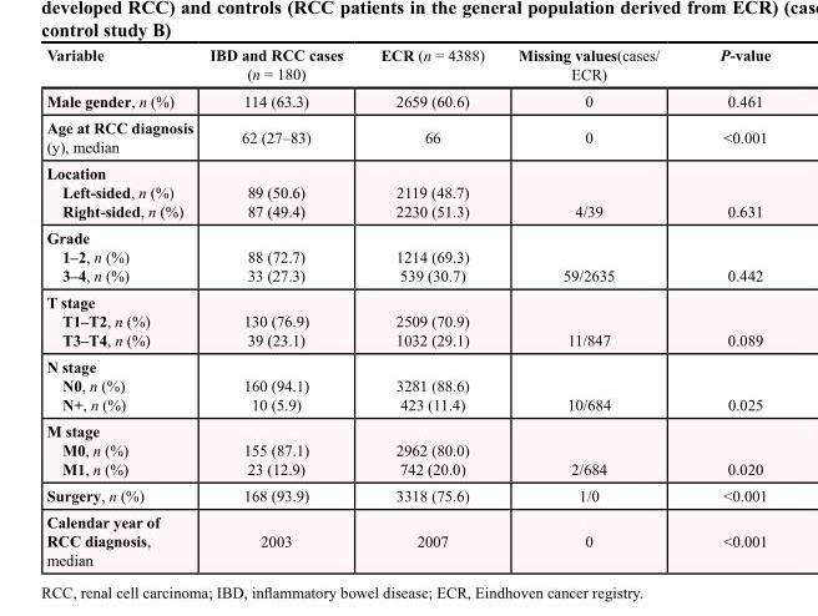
<table><thead><tr><td>Variable</td><td>IBD and RCC cases (n = 180)</td><td>ECR (n = 4388)</td><td>Missing values(cases/ ECR)</td><td>P-value</td></tr></thead><tbody><tr><td>Male gender, n (%)</td><td>114 (63.3)</td><td>2659 (60.6)</td><td>0</td><td>0.461</td></tr><tr><td>Age at RCC diagnosis (y), median</td><td>62 (27–83)</td><td>66</td><td>0</td><td>&lt;0.001</td></tr><tr><td>Location Left-sided, n (%) Right-sided, n (%)</td><td>89 (50.6) 87 (49.4)</td><td>2119 (48.7) 2230 (51.3)</td><td>4/39</td><td>0.631</td></tr><tr><td>Grade 1–2, n (%) 3–4, n (%)</td><td>88 (72.7) 33 (27.3)</td><td>1214 (69.3) 539 (30.7)</td><td>59/2635</td><td>0.442</td></tr><tr><td>T stage T1–T2, n (%) T3–T4, n (%)</td><td>130 (76.9) 39 (23.1)</td><td>2509 (70.9) 1032 (29.1)</td><td>11/847</td><td>0.089</td></tr><tr><td>N stage N0, n (%) N+, n (%)</td><td>160 (94.1) 10 (5.9)</td><td>3281 (88.6) 423 (11.4)</td><td>10/684</td><td>0.025</td></tr><tr><td>M stage M0, n (%) M1, n (%)</td><td>155 (87.1) 23 (12.9)</td><td>2962 (80.0) 742 (20.0)</td><td>2/684</td><td>0.020</td></tr><tr><td>Surgery, n (%)</td><td>168 (93.9)</td><td>3318 (75.6)</td><td>1/0</td><td>&lt;0.001</td></tr><tr><td>Calendar year of RCC diagnosis, median</td><td>2003</td><td>2007</td><td>0</td><td>&lt;0.001</td></tr></tbody></table>